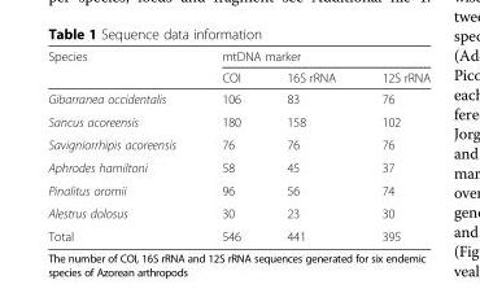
<table><thead><tr><td rowspan="2">Species</td><td colspan="3">mtDNA marker</td></tr><tr><td>COI</td><td>16S rRNA</td><td>12S rRNA</td></tr></thead><tbody><tr><td>Gibarranea occidentalis</td><td>106</td><td>83</td><td>76</td></tr><tr><td>Sancus acoreensis</td><td>180</td><td>158</td><td>102</td></tr><tr><td>Savigniorrhipis acoreensis</td><td>76</td><td>76</td><td>76</td></tr><tr><td>Aphrodes hamiltoni</td><td>58</td><td>45</td><td>37</td></tr><tr><td>Pinalitus oromii</td><td>96</td><td>56</td><td>74</td></tr><tr><td>Alestrus dolosus</td><td>30</td><td>23</td><td>30</td></tr><tr><td>Total</td><td>546</td><td>441</td><td>395</td></tr></tbody></table>